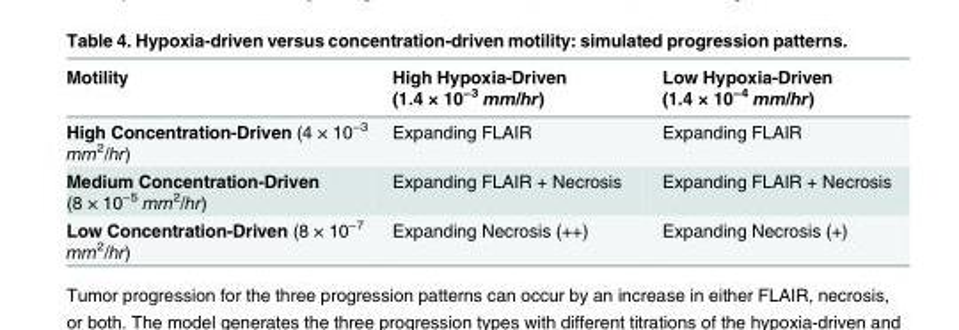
<table><thead><tr><td>Motility</td><td>High Hypoxia-Driven (1.4 × 10<sup>−3</sup> mm/hr)</td><td>Low Hypoxia-Driven (1.4 × 10<sup>−4</sup> mm/hr)</td></tr></thead><tbody><tr><td>High Concentration-Driven (4 × 10<sup>−3</sup> mm<sup>2</sup>/hr)</td><td>Expanding FLAIR</td><td>Expanding FLAIR</td></tr><tr><td>Medium Concentration-Driven (8 × 10<sup>−5</sup> mm<sup>2</sup>/hr)</td><td>Expanding FLAIR + Necrosis</td><td>Expanding FLAIR + Necrosis</td></tr><tr><td>Low Concentration-Driven (8 × 10<sup>−7</sup> mm<sup>2</sup>/hr)</td><td>Expanding Necrosis (++)</td><td>Expanding Necrosis (+)</td></tr></tbody></table>